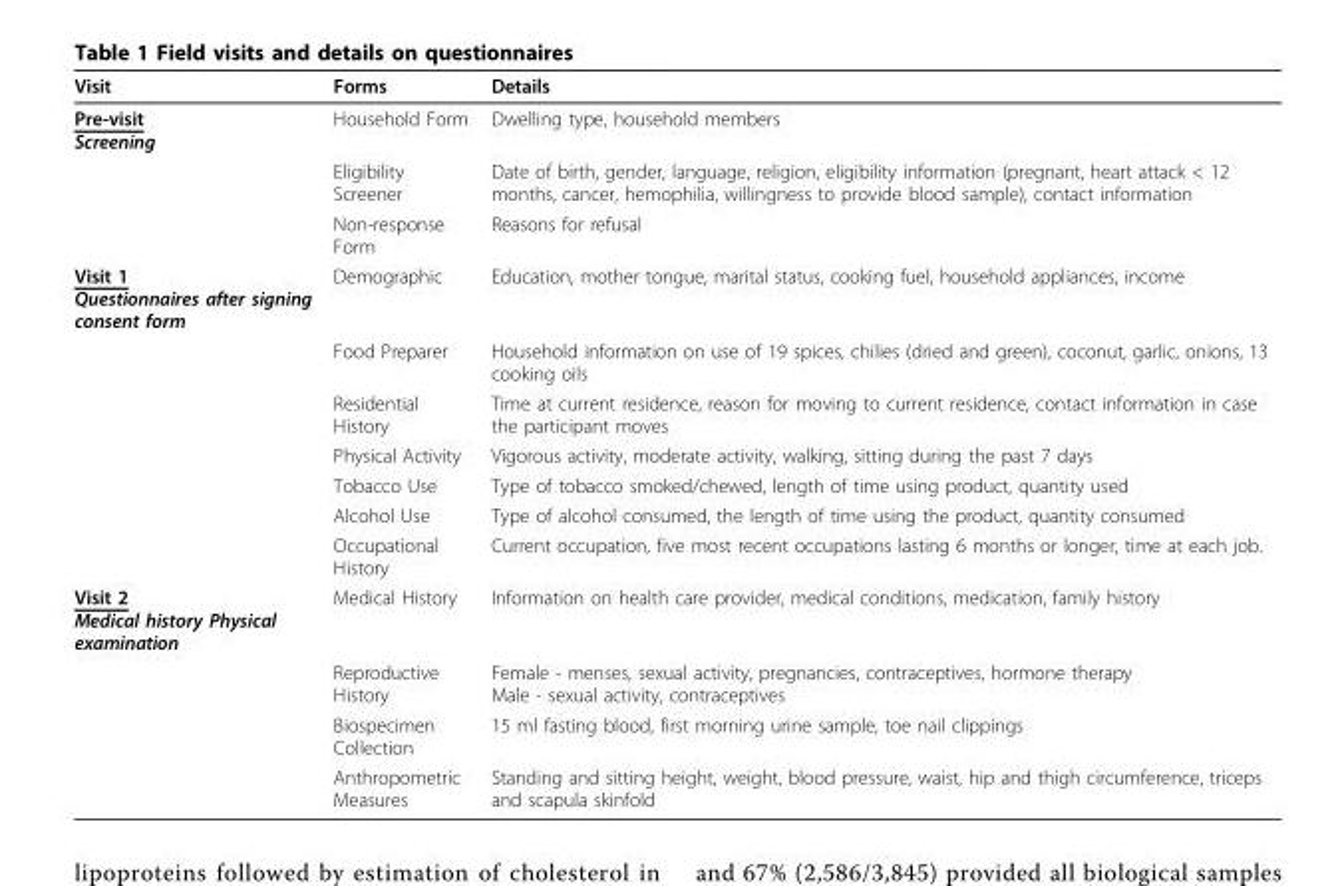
<table><thead><tr><td>Visit</td><td>Forms</td><td>Details</td></tr></thead><tbody><tr><td rowspan="3">Pre-visit Screening</td><td>Household Form</td><td>Dwelling type, household members</td></tr><tr><td>Eligibility Screener</td><td>Date of birth, gender, language, religion, eligibility information (pregnant, heart attack &lt; 12 months, cancer, hemophilia, willingness to provide blood sample), contact information</td></tr><tr><td>Non-response Form</td><td>Reasons for refusal</td></tr><tr><td rowspan="7">Visit 1 Questionnaires after signing consent form</td><td>Demographic</td><td>Education, mother tongue, marital status, cooking fuel, household appliances, income</td></tr><tr><td>Food Preparer</td><td>Household information on use of 19 spices, chilies (dried and green), coconut, garlic, onions, 13 cooking oils</td></tr><tr><td>Residential History</td><td>Time at current residence, reason for moving to current residence, contact information in case the participant moves</td></tr><tr><td>Physical Activity</td><td>Vigorous activity, moderate activity, walking, sitting during the past 7 days</td></tr><tr><td>Tobacco Use</td><td>Type of tobacco smoked/chewed, length of time using product, quantity used</td></tr><tr><td>Alcohol Use</td><td>Type of alcohol consumed, the length of time using the product, quantity consumed</td></tr><tr><td>Occupational History</td><td>Current occupation, five most recent occupations lasting 6 months or longer, time at each job.</td></tr><tr><td rowspan="4">Visit 2 Medical history Physical examination</td><td>Medical History</td><td>Information on health care provider, medical conditions, medication, family history</td></tr><tr><td>Reproductive History</td><td>Female - menses, sexual activity, pregnancies, contraceptives, hormone therapy Male - sexual activity, contraceptives</td></tr><tr><td>Biospecimen Collection</td><td>15 ml fasting blood, first morning urine sample, toe nail clippings</td></tr><tr><td>Anthropometric Measures</td><td>Standing and sitting height, weight, blood pressure, waist, hip and thigh circumference, triceps and scapula skinfold</td></tr></tbody></table>